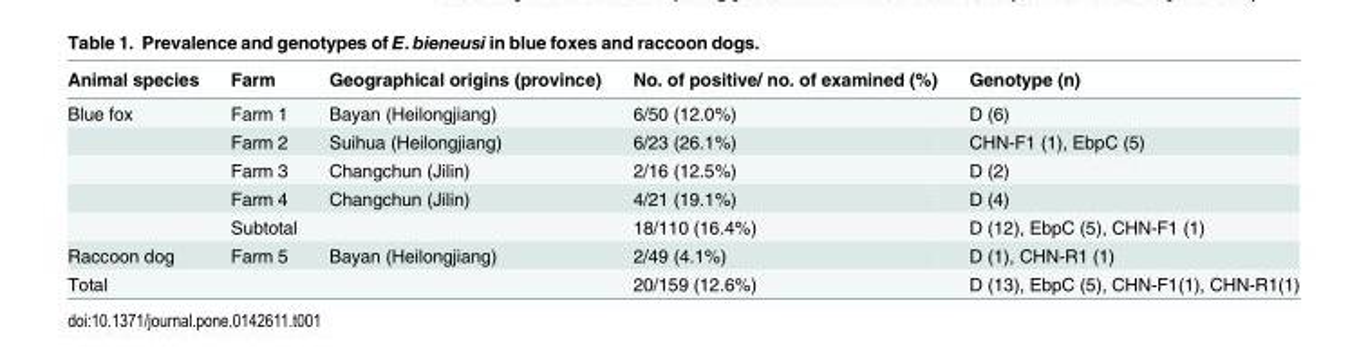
<table><thead><tr><td>Animal species</td><td>Farm</td><td>Geographical origins (province)</td><td>No. of positive/ no. of examined (%)</td><td>Genotype (n)</td></tr></thead><tbody><tr><td rowspan="5">Blue fox</td><td>Farm 1</td><td>Bayan (Heilongjiang)</td><td>6/50 (12.0%)</td><td>D (6)</td></tr><tr><td>Farm 2</td><td>Suihua (Heilongjiang)</td><td>6/23 (26.1%)</td><td>CHN-F1 (1), EbpC (5)</td></tr><tr><td>Farm 3</td><td>Changchun (Jilin)</td><td>2/16 (12.5%)</td><td>D (2)</td></tr><tr><td>Farm 4</td><td>Changchun (Jilin)</td><td>4/21 (19.1%)</td><td>D (4)</td></tr><tr><td>Subtotal</td><td></td><td>18/110 (16.4%)</td><td>D (12), EbpC (5), CHN-F1 (1)</td></tr><tr><td>Raccoon dog</td><td>Farm 5</td><td>Bayan (Heilongjiang)</td><td>2/49 (4.1%)</td><td>D (1), CHN-R1 (1)</td></tr><tr><td>Total</td><td colspan="2"></td><td>20/159 (12.6%)</td><td>D (13), EbpC (5), CHN-F1(1), CHN-R1(1)</td></tr></tbody></table>